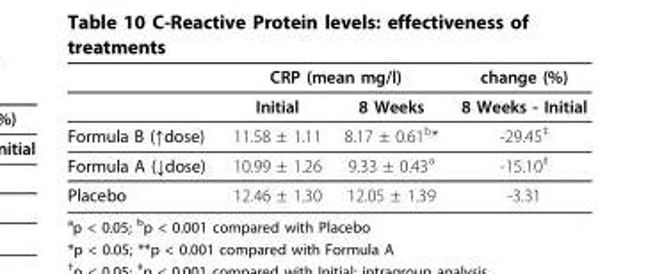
<table><thead><tr><td rowspan="2"></td><td colspan="2">CRP (mean mg/l)</td><td rowspan="2">change (%) 8 Weeks - Initial</td></tr><tr><td>Initial</td><td>8 Weeks</td></tr></thead><tbody><tr><td>Formula B (↑dose)</td><td>11.58 ± 1.11</td><td>8.17 ± 0.61b*</td><td>-29.45‡</td></tr><tr><td>Formula A (↓dose)</td><td>10.99 ± 1.26</td><td>9.33 ± 0.43a</td><td>-15.10‡</td></tr><tr><td>Placebo</td><td>12.46 ± 1.30</td><td>12.05 ± 1.39</td><td>-3.31</td></tr></tbody></table>